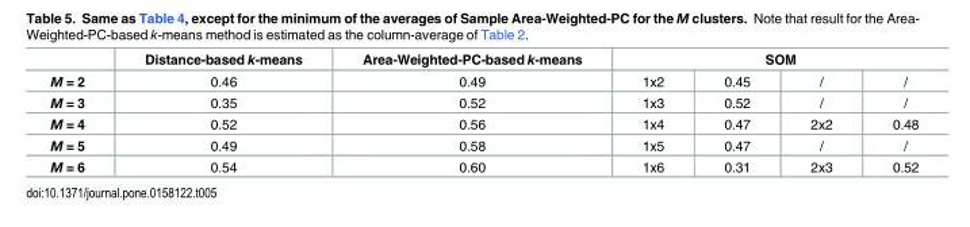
<table><thead><tr><td rowspan="2">M = 2</td><td rowspan="2">Distance-based k-means 0.46</td><td rowspan="2">Area-Weighted-PC-based k-means 0.49</td><td colspan="4">SOM</td></tr><tr><td>1x2</td><td>0.45</td><td>/</td><td>/</td></tr></thead><tbody><tr><td>M = 3</td><td>0.35</td><td>0.52</td><td>1x3</td><td>0.52</td><td>/</td><td>/</td></tr><tr><td>M = 4</td><td>0.52</td><td>0.56</td><td>1x4</td><td>0.47</td><td>2x2</td><td>0.48</td></tr><tr><td>M = 5</td><td>0.49</td><td>0.58</td><td>1x5</td><td>0.47</td><td>/</td><td>/</td></tr><tr><td>M = 6</td><td>0.54</td><td>0.60</td><td>1x6</td><td>0.31</td><td>2x3</td><td>0.52</td></tr></tbody></table>